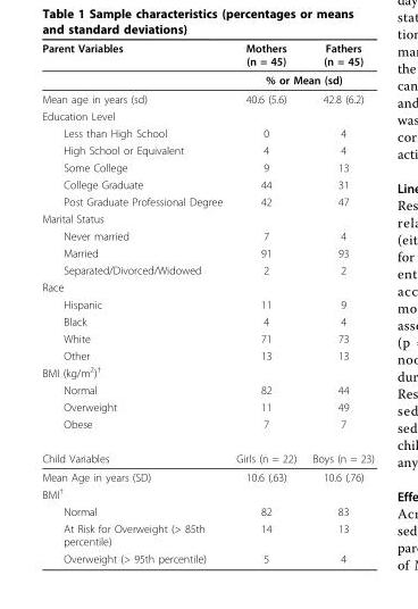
<table><thead><tr><td>Parent Variables</td><td>Mothers (n = 45)</td><td>Fathers (n = 45)</td></tr></thead><tbody><tr><td></td><td colspan="2">% or Mean (sd)</td></tr><tr><td>Mean age in years (sd)</td><td>40.6 (5.6)</td><td>42.8 (6.2)</td></tr><tr><td colspan="3">Education Level</td></tr><tr><td>Less than High School</td><td>0</td><td>4</td></tr><tr><td>High School or Equivalent</td><td>4</td><td>4</td></tr><tr><td>Some College</td><td>9</td><td>13</td></tr><tr><td>College Graduate</td><td>44</td><td>31</td></tr><tr><td>Post Graduate Professional Degree</td><td>42</td><td>47</td></tr><tr><td colspan="3">Marital Status</td></tr><tr><td>Never married</td><td>7</td><td>4</td></tr><tr><td>Married</td><td>91</td><td>93</td></tr><tr><td>Separated/Divorced/Widowed</td><td>2</td><td>2</td></tr><tr><td colspan="3">Race</td></tr><tr><td>Hispanic</td><td>11</td><td>9</td></tr><tr><td>Black</td><td>4</td><td>4</td></tr><tr><td>White</td><td>71</td><td>73</td></tr><tr><td>Other</td><td>13</td><td>13</td></tr><tr><td colspan="3">BMI (kg/m<sup>2</sup>)<sup>†</sup></td></tr><tr><td>Normal</td><td>82</td><td>44</td></tr><tr><td>Overweight</td><td>11</td><td>49</td></tr><tr><td>Obese</td><td>7</td><td>7</td></tr><tr><td>Child Variables</td><td>Girls (n = 22)</td><td>Boys (n = 23)</td></tr><tr><td>Mean Age in years (SD)</td><td>10.6 (.63)</td><td>10.6 (.76)</td></tr><tr><td colspan="3">BMI<sup>†</sup></td></tr><tr><td>Normal</td><td>82</td><td>83</td></tr><tr><td>At Risk for Overweight (&gt; 85th percentile)</td><td>14</td><td>13</td></tr><tr><td>Overweight (&gt; 95th percentile)</td><td>5</td><td>4</td></tr></tbody></table>